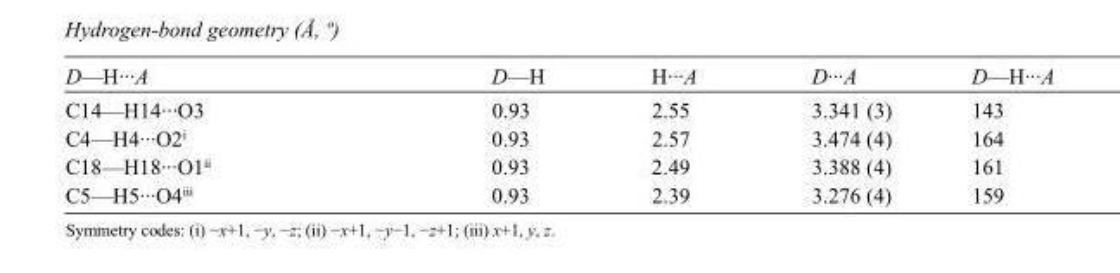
<table><tbody><tr><td>D—H···A</td><td>D—H</td><td>H···A</td><td>D···A</td><td>D—H···A</td></tr><tr><td>C14—H14···O3</td><td>0.93</td><td>2.55</td><td>3.341 (3)</td><td>143</td></tr><tr><td>C4—H4···O2<sup>i</sup></td><td>0.93</td><td>2.57</td><td>3.474 (4)</td><td>164</td></tr><tr><td>C18—H18···O1<sup>ii</sup></td><td>0.93</td><td>2.49</td><td>3.388 (4)</td><td>161</td></tr><tr><td>C5—H5···O4<sup>iii</sup></td><td>0.93</td><td>2.39</td><td>3.276 (4)</td><td>159</td></tr></tbody></table>